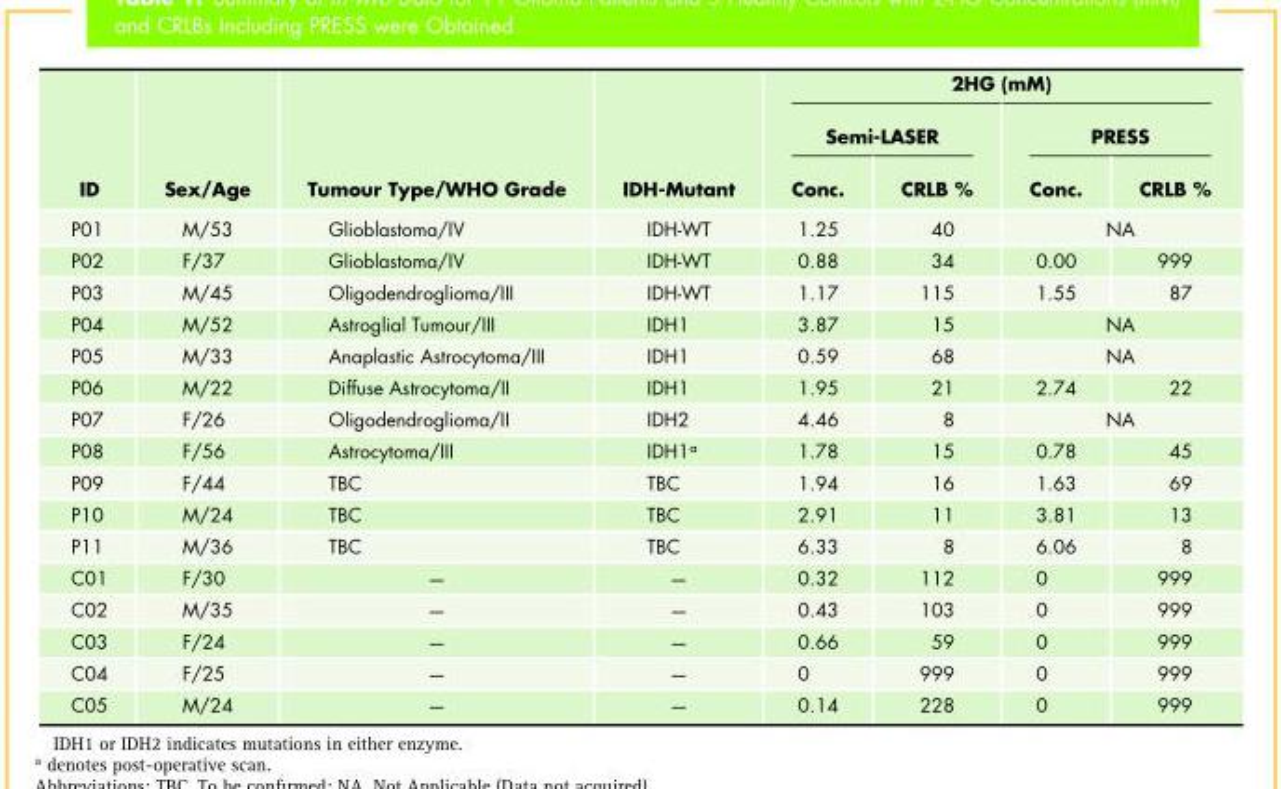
<table><thead><tr><td rowspan="3">ID</td><td rowspan="3">Sex/Age</td><td rowspan="3">Tumour Type/WHO Grade</td><td rowspan="3">IDH-Mutant</td><td colspan="4">2HG (mM)</td></tr><tr><td colspan="2">Semi-LASER</td><td colspan="2">PRESS</td></tr><tr><td>Conc.</td><td>CRLB %</td><td>Conc.</td><td>CRLB %</td></tr></thead><tbody><tr><td>P01</td><td>M/53</td><td>Glioblastoma/IV</td><td>IDH-WT</td><td>1.25</td><td>40</td><td colspan="2">NA</td></tr><tr><td>P02</td><td>F/37</td><td>Glioblastoma/IV</td><td>IDH-WT</td><td>0.88</td><td>34</td><td>0.00</td><td>999</td></tr><tr><td>P03</td><td>M/45</td><td>Oligodendroglioma/III</td><td>IDH-WT</td><td>1.17</td><td>115</td><td>1.55</td><td>87</td></tr><tr><td>P04</td><td>M/52</td><td>Astroglial Tumour/III</td><td>IDH1</td><td>3.87</td><td>15</td><td colspan="2">NA</td></tr><tr><td>P05</td><td>M/33</td><td>Anaplastic Astrocytoma/III</td><td>IDH1</td><td>0.59</td><td>68</td><td colspan="2">NA</td></tr><tr><td>P06</td><td>M/22</td><td>Diffuse Astrocytoma/II</td><td>IDH1</td><td>1.95</td><td>21</td><td>2.74</td><td>22</td></tr><tr><td>P07</td><td>F/26</td><td>Oligodendroglioma/II</td><td>IDH2</td><td>4.46</td><td>8</td><td colspan="2">NA</td></tr><tr><td>P08</td><td>F/56</td><td>Astrocytoma/III</td><td>IDH1<sup>a</sup></td><td>1.78</td><td>15</td><td>0.78</td><td>45</td></tr><tr><td>P09</td><td>F/44</td><td>TBC</td><td>TBC</td><td>1.94</td><td>16</td><td>1.63</td><td>69</td></tr><tr><td>P10</td><td>M/24</td><td>TBC</td><td>TBC</td><td>2.91</td><td>11</td><td>3.81</td><td>13</td></tr><tr><td>P11</td><td>M/36</td><td>TBC</td><td>TBC</td><td>6.33</td><td>8</td><td>6.06</td><td>8</td></tr><tr><td>C01</td><td>F/30</td><td>—</td><td>—</td><td>0.32</td><td>112</td><td>0</td><td>999</td></tr><tr><td>C02</td><td>M/35</td><td>—</td><td>—</td><td>0.43</td><td>103</td><td>0</td><td>999</td></tr><tr><td>C03</td><td>F/24</td><td>—</td><td>—</td><td>0.66</td><td>59</td><td>0</td><td>999</td></tr><tr><td>C04</td><td>F/25</td><td>—</td><td>—</td><td>0</td><td>999</td><td>0</td><td>999</td></tr><tr><td>C05</td><td>M/24</td><td>—</td><td>—</td><td>0.14</td><td>228</td><td>0</td><td>999</td></tr></tbody></table>